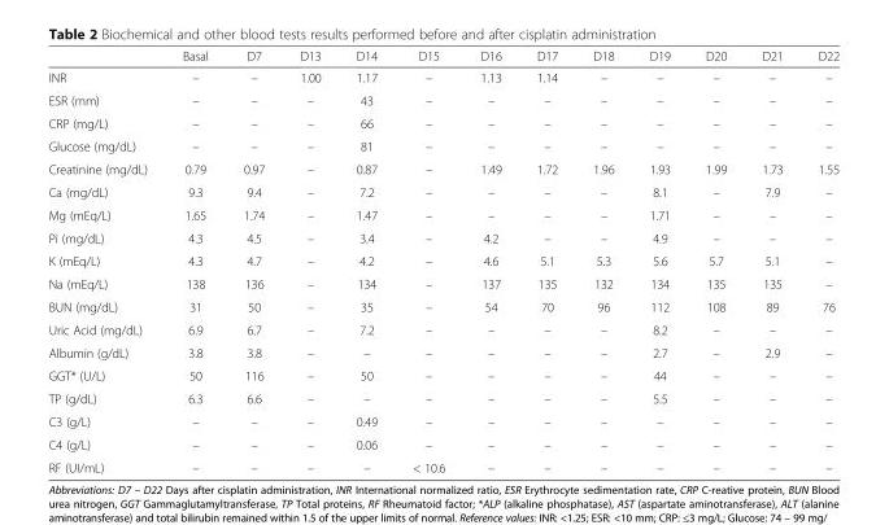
<table><thead><tr><td></td><td>Basal</td><td>D7</td><td>D13</td><td>D14</td><td>D15</td><td>D16</td><td>D17</td><td>D18</td><td>D19</td><td>D20</td><td>D21</td><td>D22</td></tr></thead><tbody><tr><td>INR</td><td>–</td><td>–</td><td>1.00</td><td>1.17</td><td>–</td><td>1.13</td><td>1.14</td><td>–</td><td>–</td><td>–</td><td>–</td><td>–</td></tr><tr><td>ESR (mm)</td><td>–</td><td>–</td><td>–</td><td>43</td><td>–</td><td>–</td><td>–</td><td>–</td><td>–</td><td>–</td><td>–</td><td>–</td></tr><tr><td>CRP (mg/L)</td><td>–</td><td>–</td><td>–</td><td>66</td><td>–</td><td>–</td><td>–</td><td>–</td><td>–</td><td>–</td><td>–</td><td>–</td></tr><tr><td>Glucose (mg/dL)</td><td>–</td><td>–</td><td>–</td><td>81</td><td>–</td><td>–</td><td>–</td><td>–</td><td>–</td><td>–</td><td>–</td><td>–</td></tr><tr><td>Creatinine (mg/dL)</td><td>0.79</td><td>0.97</td><td>–</td><td>0.87</td><td>–</td><td>1.49</td><td>1.72</td><td>1.96</td><td>1.93</td><td>1.99</td><td>1.73</td><td>1.55</td></tr><tr><td>Ca (mg/dL)</td><td>9.3</td><td>9.4</td><td>–</td><td>7.2</td><td>–</td><td>–</td><td>–</td><td>–</td><td>8.1</td><td>–</td><td>7.9</td><td>–</td></tr><tr><td>Mg (mEq/L)</td><td>1.65</td><td>1.74</td><td>–</td><td>1.47</td><td>–</td><td>–</td><td>–</td><td>–</td><td>1.71</td><td>–</td><td>–</td><td>–</td></tr><tr><td>Pi (mg/dL)</td><td>4.3</td><td>4.5</td><td>–</td><td>3.4</td><td>–</td><td>4.2</td><td>–</td><td>–</td><td>4.9</td><td>–</td><td>–</td><td>–</td></tr><tr><td>K (mEq/L)</td><td>4.3</td><td>4.7</td><td>–</td><td>4.2</td><td>–</td><td>4.6</td><td>5.1</td><td>5.3</td><td>5.6</td><td>5.7</td><td>5.1</td><td>–</td></tr><tr><td>Na (mEq/L)</td><td>138</td><td>136</td><td>–</td><td>134</td><td>–</td><td>137</td><td>135</td><td>132</td><td>134</td><td>135</td><td>135</td><td>–</td></tr><tr><td>BUN (mg/dL)</td><td>31</td><td>50</td><td>–</td><td>35</td><td>–</td><td>54</td><td>70</td><td>96</td><td>112</td><td>108</td><td>89</td><td>76</td></tr><tr><td>Uric Acid (mg/dL)</td><td>6.9</td><td>6.7</td><td>–</td><td>7.2</td><td>–</td><td>–</td><td>–</td><td>–</td><td>8.2</td><td>–</td><td>–</td><td>–</td></tr><tr><td>Albumin (g/dL)</td><td>3.8</td><td>3.8</td><td>–</td><td>–</td><td>–</td><td>–</td><td>–</td><td>–</td><td>2.7</td><td>–</td><td>2.9</td><td>–</td></tr><tr><td>GGT* (U/L)</td><td>50</td><td>116</td><td>–</td><td>50</td><td>–</td><td>–</td><td>–</td><td>–</td><td>44</td><td>–</td><td>–</td><td>–</td></tr><tr><td>TP (g/dL)</td><td>6.3</td><td>6.6</td><td>–</td><td>–</td><td>–</td><td>–</td><td>–</td><td>–</td><td>5.5</td><td>–</td><td>–</td><td>–</td></tr><tr><td>C3 (g/L)</td><td>–</td><td>–</td><td>–</td><td>0.49</td><td>–</td><td>–</td><td>–</td><td>–</td><td>–</td><td>–</td><td>–</td><td>–</td></tr><tr><td>C4 (g/L)</td><td>–</td><td>–</td><td>–</td><td>0.06</td><td>–</td><td>–</td><td>–</td><td>–</td><td>–</td><td>–</td><td>–</td><td>–</td></tr><tr><td>RF (UI/mL)</td><td>–</td><td>–</td><td>–</td><td>–</td><td>&lt; 10.6</td><td>–</td><td>–</td><td>–</td><td>–</td><td>–</td><td>–</td><td>–</td></tr></tbody></table>